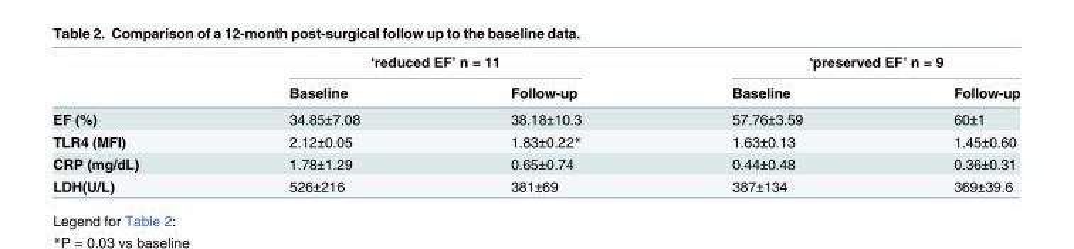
<table><thead><tr><td rowspan="2"></td><td colspan="2">‘reduced EF’ n = 11</td><td colspan="2">‘preserved EF’ n = 9</td></tr><tr><td>Baseline</td><td>Follow-up</td><td>Baseline</td><td>Follow-up</td></tr></thead><tbody><tr><td>EF (%)</td><td>34.85±7.08</td><td>38.18±10.3</td><td>57.76±3.59</td><td>60±1</td></tr><tr><td>TLR4 (MFI)</td><td>2.12±0.05</td><td>1.83±0.22*</td><td>1.63±0.13</td><td>1.45±0.60</td></tr><tr><td>CRP (mg/dL)</td><td>1.78±1.29</td><td>0.65±0.74</td><td>0.44±0.48</td><td>0.36±0.31</td></tr><tr><td>LDH(U/L)</td><td>526±216</td><td>381±69</td><td>387±134</td><td>369±39.6</td></tr></tbody></table>